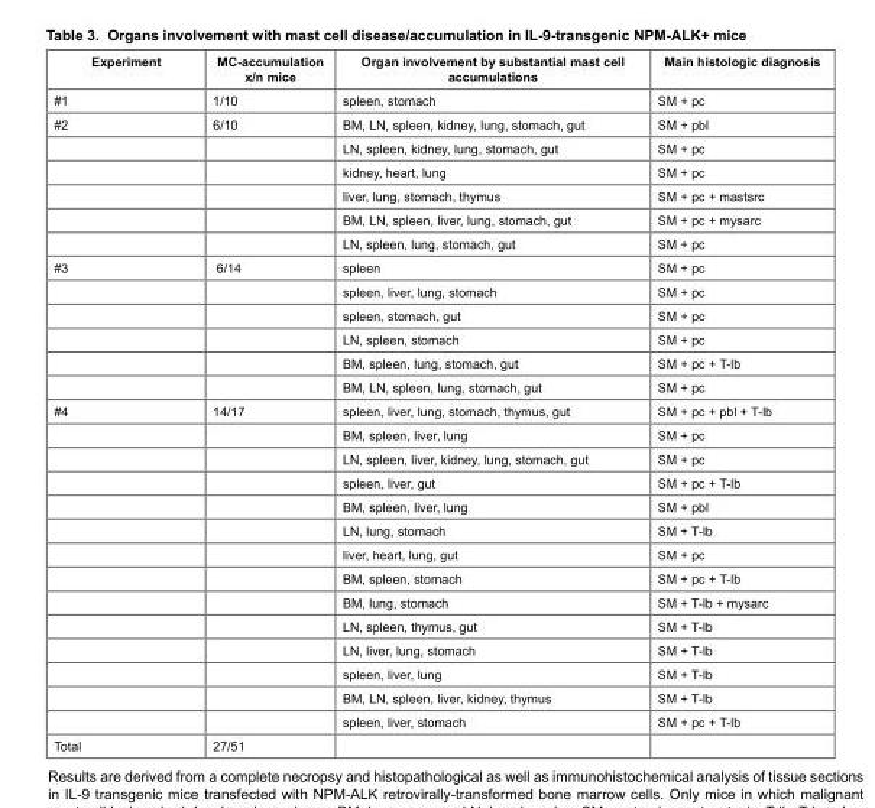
<table><thead><tr><td>Experiment</td><td>MC-accumulation x/n mice</td><td>Organ involvement by substantial mast cell accumulations</td><td>Main histologic diagnosis</td></tr></thead><tbody><tr><td>#1</td><td>1/10</td><td>spleen, stomach</td><td>SM + pc</td></tr><tr><td rowspan="6">#2</td><td>6/10</td><td>BM, LN, spleen, kidney, lung, stomach, gut</td><td>SM + pbl</td></tr><tr><td></td><td>LN, spleen, kidney, lung, stomach, gut</td><td>SM + pc</td></tr><tr><td></td><td>kidney, heart, lung</td><td>SM + pc</td></tr><tr><td></td><td>liver, lung, stomach, thymus</td><td>SM + pc + mastsrc</td></tr><tr><td></td><td>BM, LN, spleen, liver, lung, stomach, gut</td><td>SM + pc + mysarc</td></tr><tr><td></td><td>LN, spleen, lung, stomach, gut</td><td>SM + pc</td></tr><tr><td rowspan="6">#3</td><td>6/14</td><td>spleen</td><td>SM + pc</td></tr><tr><td></td><td>spleen, liver, lung, stomach</td><td>SM + pc</td></tr><tr><td></td><td>spleen, stomach, gut</td><td>SM + pc</td></tr><tr><td></td><td>LN, spleen, stomach</td><td>SM + pc</td></tr><tr><td></td><td>BM, spleen, lung, stomach, gut</td><td>SM + pc + T-lb</td></tr><tr><td></td><td>BM, LN, spleen, lung, stomach, gut</td><td>SM + pc</td></tr><tr><td rowspan="14">#4</td><td>14/17</td><td>spleen, liver, lung, stomach, thymus, gut</td><td>SM + pc + pbl + T-lb</td></tr><tr><td></td><td>BM, spleen, liver, lung</td><td>SM + pc</td></tr><tr><td></td><td>LN, spleen, liver, kidney, lung, stomach, gut</td><td>SM + pc</td></tr><tr><td></td><td>spleen, liver, gut</td><td>SM + pc + T-lb</td></tr><tr><td></td><td>BM, spleen, liver, lung</td><td>SM + pbl</td></tr><tr><td></td><td>LN, lung, stomach</td><td>SM + T-lb</td></tr><tr><td></td><td>liver, heart, lung, gut</td><td>SM + pc</td></tr><tr><td></td><td>BM, spleen, stomach</td><td>SM + pc + T-lb</td></tr><tr><td></td><td>BM, lung, stomach</td><td>SM + T-lb + mysarc</td></tr><tr><td></td><td>LN, spleen, thymus, gut</td><td>SM + T-lb</td></tr><tr><td></td><td>LN, liver, lung, stomach</td><td>SM + T-lb</td></tr><tr><td></td><td>spleen, liver, lung</td><td>SM + T-lb</td></tr><tr><td></td><td>BM, LN, spleen, liver, kidney, thymus</td><td>SM + T-lb</td></tr><tr><td></td><td>spleen, liver, stomach</td><td>SM + pc + T-lb</td></tr><tr><td>Total</td><td>27/51</td><td></td><td></td></tr></tbody></table>